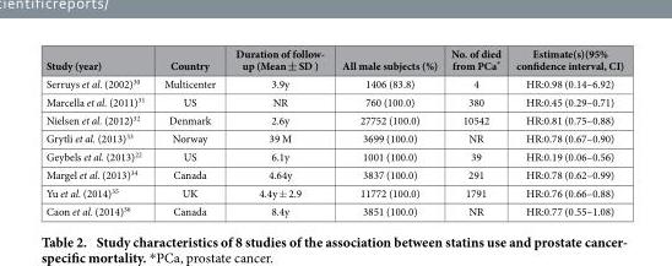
<table><thead><tr><td>Study (year)</td><td>Country</td><td>Duration of follow- up (Mean ± SD )</td><td>All male subjects (%)</td><td>No. of died from PCa*</td><td>Estimate(s)(95% confidence interval, CI)</td></tr></thead><tbody><tr><td>Serruys et al. (2002)<sup>30</sup></td><td>Multicenter</td><td>3.9y</td><td>1406 (83.8)</td><td>4</td><td>HR:0.98 (0.14–6.92)</td></tr><tr><td>Marcella et al. (2011)<sup>31</sup></td><td>US</td><td>NR</td><td>760 (100.0)</td><td>380</td><td>HR:0.45 (0.29–0.71)</td></tr><tr><td>Nielsen et al. (2012)<sup>32</sup></td><td>Denmark</td><td>2.6y</td><td>27752 (100.0)</td><td>10542</td><td>HR:0.81 (0.75–0.88)</td></tr><tr><td>Grytli et al. (2013)<sup>33</sup></td><td>Norway</td><td>39 M</td><td>3699 (100.0)</td><td>NR</td><td>HR:0.78 (0.67–0.90)</td></tr><tr><td>Geybels et al. (2013)<sup>22</sup></td><td>US</td><td>6.1y</td><td>1001 (100.0)</td><td>39</td><td>HR:0.19 (0.06–0.56)</td></tr><tr><td>Margel et al. (2013)<sup>34</sup></td><td>Canada</td><td>4.64y</td><td>3837 (100.0)</td><td>291</td><td>HR:0.78 (0.62–0.99)</td></tr><tr><td>Yu et al. (2014)<sup>35</sup></td><td>UK</td><td>4.4y ± 2.9</td><td>11772 (100.0)</td><td>1791</td><td>HR:0.76 (0.66–0.88)</td></tr><tr><td>Caon et al. (2014)<sup>36</sup></td><td>Canada</td><td>8.4y</td><td>3851 (100.0)</td><td>NR</td><td>HR:0.77 (0.55–1.08)</td></tr></tbody></table>